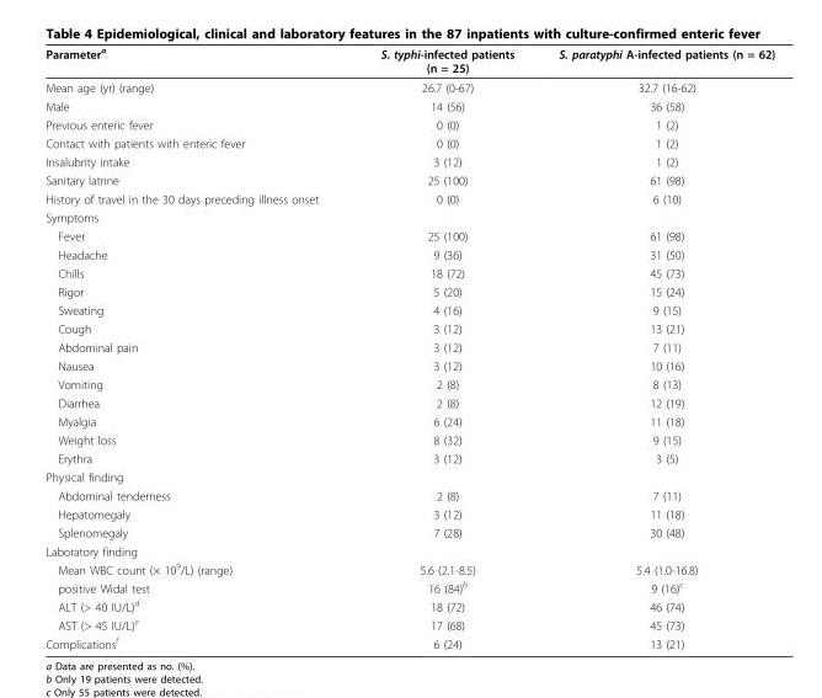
<table><thead><tr><td>Parameter<sup>a</sup></td><td>S. typhi-infected patients (n = 25)</td><td>S. paratyphi A-infected patients (n = 62)</td></tr></thead><tbody><tr><td>Mean age (yr) (range)</td><td>26.7 (0-67)</td><td>32.7 (16-62)</td></tr><tr><td>Male</td><td>14 (56)</td><td>36 (58)</td></tr><tr><td>Previous enteric fever</td><td>0 (0)</td><td>1 (2)</td></tr><tr><td>Contact with patients with enteric fever</td><td>0 (0)</td><td>1 (2)</td></tr><tr><td>Insalubrity intake</td><td>3 (12)</td><td>1 (2)</td></tr><tr><td>Sanitary latrine</td><td>25 (100)</td><td>61 (98)</td></tr><tr><td>History of travel in the 30 days preceding illness onset</td><td>0 (0)</td><td>6 (10)</td></tr><tr><td colspan="3">Symptoms</td></tr><tr><td>Fever</td><td>25 (100)</td><td>61 (98)</td></tr><tr><td>Headache</td><td>9 (36)</td><td>31 (50)</td></tr><tr><td>Chills</td><td>18 (72)</td><td>45 (73)</td></tr><tr><td>Rigor</td><td>5 (20)</td><td>15 (24)</td></tr><tr><td>Sweating</td><td>4 (16)</td><td>9 (15)</td></tr><tr><td>Cough</td><td>3 (12)</td><td>13 (21)</td></tr><tr><td>Abdominal pain</td><td>3 (12)</td><td>7 (11)</td></tr><tr><td>Nausea</td><td>3 (12)</td><td>10 (16)</td></tr><tr><td>Vomiting</td><td>2 (8)</td><td>8 (13)</td></tr><tr><td>Diarrhea</td><td>2 (8)</td><td>12 (19)</td></tr><tr><td>Myalgia</td><td>6 (24)</td><td>11 (18)</td></tr><tr><td>Weight loss</td><td>8 (32)</td><td>9 (15)</td></tr><tr><td>Erythra</td><td>3 (12)</td><td>3 (5)</td></tr><tr><td colspan="3">Physical finding</td></tr><tr><td>Abdominal tenderness</td><td>2 (8)</td><td>7 (11)</td></tr><tr><td>Hepatomegaly</td><td>3 (12)</td><td>11 (18)</td></tr><tr><td>Splenomegaly</td><td>7 (28)</td><td>30 (48)</td></tr><tr><td colspan="3">Laboratory finding</td></tr><tr><td>Mean WBC count (× 10<sup>9</sup>/L) (range)</td><td>5.6 (2.1-8.5)</td><td>5.4 (1.0-16.8)</td></tr><tr><td>positive Widal test</td><td>16 (84)<sup>b</sup></td><td>9 (16)<sup>c</sup></td></tr><tr><td>ALT (&gt; 40 IU/L)<sup>d</sup></td><td>18 (72)</td><td>46 (74)</td></tr><tr><td>AST (&gt; 45 IU/L)<sup>e</sup></td><td>17 (68)</td><td>45 (73)</td></tr><tr><td>Complications<sup>f</sup></td><td>6 (24)</td><td>13 (21)</td></tr></tbody></table>